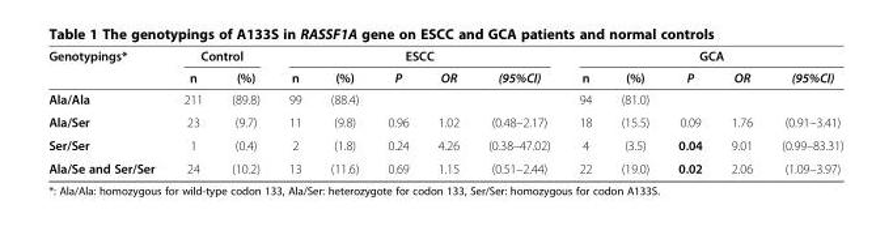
<table><thead><tr><td rowspan="2">Genotypings*</td><td colspan="2">Control</td><td colspan="5">ESCC</td><td colspan="5">GCA</td></tr><tr><td>n</td><td>(%)</td><td>n</td><td>(%)</td><td>P</td><td>OR</td><td>(95%CI)</td><td>n</td><td>(%)</td><td>P</td><td>OR</td><td>(95%CI)</td></tr></thead><tbody><tr><td>Ala/Ala</td><td>211</td><td>(89.8)</td><td>99</td><td>(88.4)</td><td></td><td></td><td></td><td>94</td><td>(81.0)</td><td></td><td></td><td></td></tr><tr><td>Ala/Ser</td><td>23</td><td>(9.7)</td><td>11</td><td>(9.8)</td><td>0.96</td><td>1.02</td><td>(0.48–2.17)</td><td>18</td><td>(15.5)</td><td>0.09</td><td>1.76</td><td>(0.91–3.41)</td></tr><tr><td>Ser/Ser</td><td>1</td><td>(0.4)</td><td>2</td><td>(1.8)</td><td>0.24</td><td>4.26</td><td>(0.38–47.02)</td><td>4</td><td>(3.5)</td><td>0.04</td><td>9.01</td><td>(0.99–83.31)</td></tr><tr><td>Ala/Se and Ser/Ser</td><td>24</td><td>(10.2)</td><td>13</td><td>(11.6)</td><td>0.69</td><td>1.15</td><td>(0.51–2.44)</td><td>22</td><td>(19.0)</td><td>0.02</td><td>2.06</td><td>(1.09–3.97)</td></tr></tbody></table>